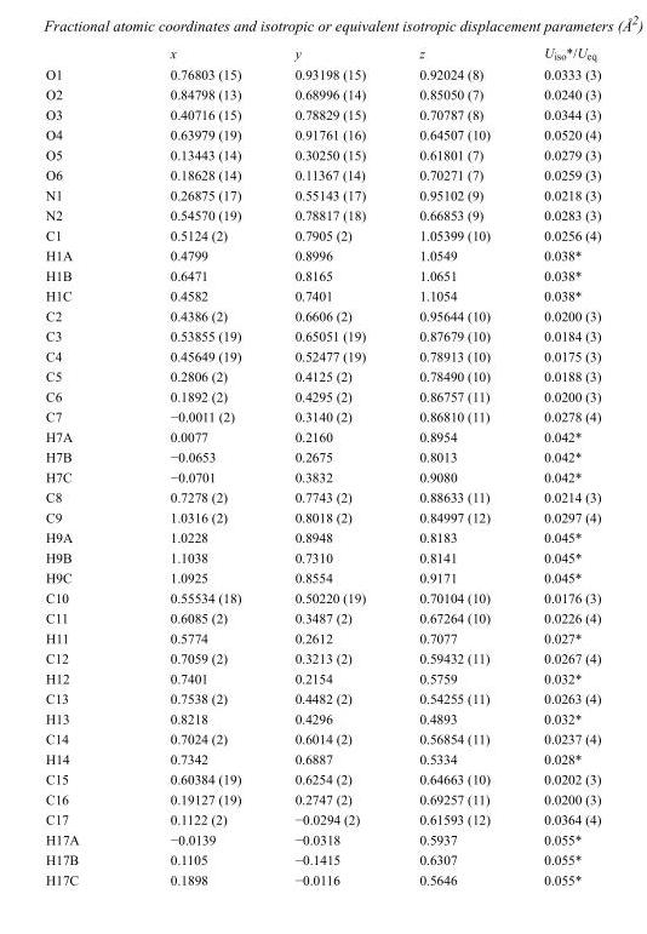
<table><thead><tr><td></td><td>x</td><td>y</td><td>z</td><td>U<sub>iso</sub>*/U<sub>eq</sub></td></tr></thead><tbody><tr><td>O1</td><td>0.76803 (15)</td><td>0.93198 (15)</td><td>0.92024 (8)</td><td>0.0333 (3)</td></tr><tr><td>O2</td><td>0.84798 (13)</td><td>0.68996 (14)</td><td>0.85050 (7)</td><td>0.0240 (3)</td></tr><tr><td>O3</td><td>0.40716 (15)</td><td>0.78829 (15)</td><td>0.70787 (8)</td><td>0.0344 (3)</td></tr><tr><td>O4</td><td>0.63979 (19)</td><td>0.91761 (16)</td><td>0.64507 (10)</td><td>0.0520 (4)</td></tr><tr><td>O5</td><td>0.13443 (14)</td><td>0.30250 (15)</td><td>0.61801 (7)</td><td>0.0279 (3)</td></tr><tr><td>O6</td><td>0.18628 (14)</td><td>0.11367 (14)</td><td>0.70271 (7)</td><td>0.0259 (3)</td></tr><tr><td>N1</td><td>0.26875 (17)</td><td>0.55143 (17)</td><td>0.95102 (9)</td><td>0.0218 (3)</td></tr><tr><td>N2</td><td>0.54570 (19)</td><td>0.78817 (18)</td><td>0.66853 (9)</td><td>0.0283 (3)</td></tr><tr><td>C1</td><td>0.5124 (2)</td><td>0.7905 (2)</td><td>1.05399 (10)</td><td>0.0256 (4)</td></tr><tr><td>H1A</td><td>0.4799</td><td>0.8996</td><td>1.0549</td><td>0.038*</td></tr><tr><td>H1B</td><td>0.6471</td><td>0.8165</td><td>1.0651</td><td>0.038*</td></tr><tr><td>H1C</td><td>0.4582</td><td>0.7401</td><td>1.1054</td><td>0.038*</td></tr><tr><td>C2</td><td>0.4386 (2)</td><td>0.6606 (2)</td><td>0.95644 (10)</td><td>0.0200 (3)</td></tr><tr><td>C3</td><td>0.53855 (19)</td><td>0.65051 (19)</td><td>0.87679 (10)</td><td>0.0184 (3)</td></tr><tr><td>C4</td><td>0.45649 (19)</td><td>0.52477 (19)</td><td>0.78913 (10)</td><td>0.0175 (3)</td></tr><tr><td>C5</td><td>0.2806 (2)</td><td>0.4125 (2)</td><td>0.78490 (10)</td><td>0.0188 (3)</td></tr><tr><td>C6</td><td>0.1892 (2)</td><td>0.4295 (2)</td><td>0.86757 (11)</td><td>0.0200 (3)</td></tr><tr><td>C7</td><td>−0.0011 (2)</td><td>0.3140 (2)</td><td>0.86810 (11)</td><td>0.0278 (4)</td></tr><tr><td>H7A</td><td>0.0077</td><td>0.2160</td><td>0.8954</td><td>0.042*</td></tr><tr><td>H7B</td><td>−0.0653</td><td>0.2675</td><td>0.8013</td><td>0.042*</td></tr><tr><td>H7C</td><td>−0.0701</td><td>0.3832</td><td>0.9080</td><td>0.042*</td></tr><tr><td>C8</td><td>0.7278 (2)</td><td>0.7743 (2)</td><td>0.88633 (11)</td><td>0.0214 (3)</td></tr><tr><td>C9</td><td>1.0316 (2)</td><td>0.8018 (2)</td><td>0.84997 (12)</td><td>0.0297 (4)</td></tr><tr><td>H9A</td><td>1.0228</td><td>0.8948</td><td>0.8183</td><td>0.045*</td></tr><tr><td>H9B</td><td>1.1038</td><td>0.7310</td><td>0.8141</td><td>0.045*</td></tr><tr><td>H9C</td><td>1.0925</td><td>0.8554</td><td>0.9171</td><td>0.045*</td></tr><tr><td>C10</td><td>0.55534 (18)</td><td>0.50220 (19)</td><td>0.70104 (10)</td><td>0.0176 (3)</td></tr><tr><td>C11</td><td>0.6085 (2)</td><td>0.3487 (2)</td><td>0.67264 (10)</td><td>0.0226 (4)</td></tr><tr><td>H11</td><td>0.5774</td><td>0.2612</td><td>0.7077</td><td>0.027*</td></tr><tr><td>C12</td><td>0.7059 (2)</td><td>0.3213 (2)</td><td>0.59432 (11)</td><td>0.0267 (4)</td></tr><tr><td>H12</td><td>0.7401</td><td>0.2154</td><td>0.5759</td><td>0.032*</td></tr><tr><td>C13</td><td>0.7538 (2)</td><td>0.4482 (2)</td><td>0.54255 (11)</td><td>0.0263 (4)</td></tr><tr><td>H13</td><td>0.8218</td><td>0.4296</td><td>0.4893</td><td>0.032*</td></tr><tr><td>C14</td><td>0.7024 (2)</td><td>0.6014 (2)</td><td>0.56854 (11)</td><td>0.0237 (4)</td></tr><tr><td>H14</td><td>0.7342</td><td>0.6887</td><td>0.5334</td><td>0.028*</td></tr><tr><td>C15</td><td>0.60384 (19)</td><td>0.6254 (2)</td><td>0.64663 (10)</td><td>0.0202 (3)</td></tr><tr><td>C16</td><td>0.19127 (19)</td><td>0.2747 (2)</td><td>0.69257 (11)</td><td>0.0200 (3)</td></tr><tr><td>C17</td><td>0.1122 (2)</td><td>−0.0294 (2)</td><td>0.61593 (12)</td><td>0.0364 (4)</td></tr><tr><td>H17A</td><td>−0.0139</td><td>−0.0318</td><td>0.5937</td><td>0.055*</td></tr><tr><td>H17B</td><td>0.1105</td><td>−0.1415</td><td>0.6307</td><td>0.055*</td></tr><tr><td>H17C</td><td>0.1898</td><td>−0.0116</td><td>0.5646</td><td>0.055*</td></tr></tbody></table>